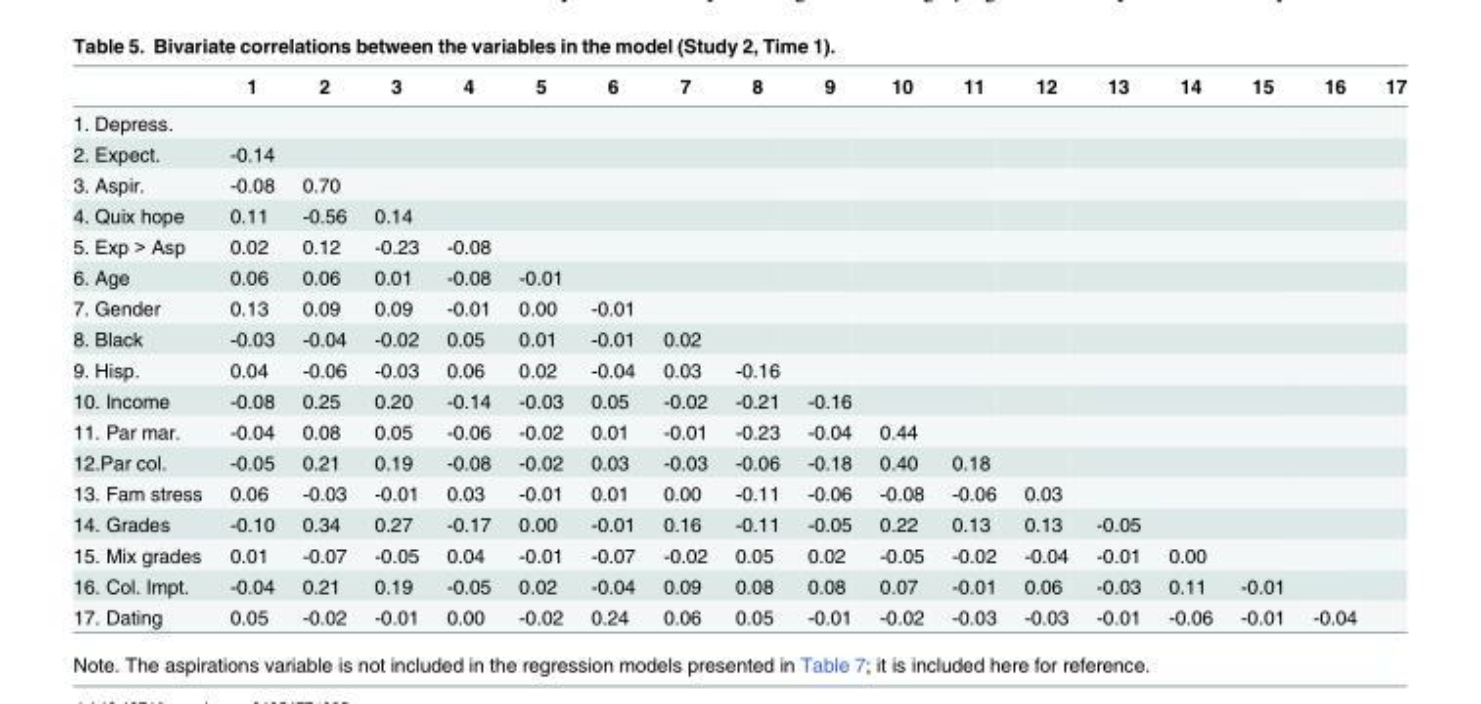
<table><thead><tr><td></td><td>1</td><td>2</td><td>3</td><td>4</td><td>5</td><td>6</td><td>7</td><td>8</td><td>9</td><td>10</td><td>11</td><td>12</td><td>13</td><td>14</td><td>15</td><td>16</td><td>17</td></tr></thead><tbody><tr><td colspan="18">1. Depress.</td></tr><tr><td>2. Expect.</td><td>-0.14</td><td></td><td></td><td></td><td></td><td></td><td></td><td></td><td></td><td></td><td></td><td></td><td></td><td></td><td></td><td></td><td></td></tr><tr><td>3. Aspir.</td><td>-0.08</td><td>0.70</td><td></td><td></td><td></td><td></td><td></td><td></td><td></td><td></td><td></td><td></td><td></td><td></td><td></td><td></td><td></td></tr><tr><td>4. Quix hope</td><td>0.11</td><td>-0.56</td><td>0.14</td><td></td><td></td><td></td><td></td><td></td><td></td><td></td><td></td><td></td><td></td><td></td><td></td><td></td><td></td></tr><tr><td>5. Exp &gt; Asp</td><td>0.02</td><td>0.12</td><td>-0.23</td><td>-0.08</td><td></td><td></td><td></td><td></td><td></td><td></td><td></td><td></td><td></td><td></td><td></td><td></td><td></td></tr><tr><td>6. Age</td><td>0.06</td><td>0.06</td><td>0.01</td><td>-0.08</td><td>-0.01</td><td></td><td></td><td></td><td></td><td></td><td></td><td></td><td></td><td></td><td></td><td></td><td></td></tr><tr><td>7. Gender</td><td>0.13</td><td>0.09</td><td>0.09</td><td>-0.01</td><td>0.00</td><td>-0.01</td><td></td><td></td><td></td><td></td><td></td><td></td><td></td><td></td><td></td><td></td><td></td></tr><tr><td>8. Black</td><td>-0.03</td><td>-0.04</td><td>-0.02</td><td>0.05</td><td>0.01</td><td>-0.01</td><td>0.02</td><td></td><td></td><td></td><td></td><td></td><td></td><td></td><td></td><td></td><td></td></tr><tr><td>9. Hisp.</td><td>0.04</td><td>-0.06</td><td>-0.03</td><td>0.06</td><td>0.02</td><td>-0.04</td><td>0.03</td><td>-0.16</td><td></td><td></td><td></td><td></td><td></td><td></td><td></td><td></td><td></td></tr><tr><td>10. Income</td><td>-0.08</td><td>0.25</td><td>0.20</td><td>-0.14</td><td>-0.03</td><td>0.05</td><td>-0.02</td><td>-0.21</td><td>-0.16</td><td></td><td></td><td></td><td></td><td></td><td></td><td></td><td></td></tr><tr><td>11. Par mar.</td><td>-0.04</td><td>0.08</td><td>0.05</td><td>-0.06</td><td>-0.02</td><td>0.01</td><td>-0.01</td><td>-0.23</td><td>-0.04</td><td>0.44</td><td></td><td></td><td></td><td></td><td></td><td></td><td></td></tr><tr><td>12.Par col.</td><td>-0.05</td><td>0.21</td><td>0.19</td><td>-0.08</td><td>-0.02</td><td>0.03</td><td>-0.03</td><td>-0.06</td><td>-0.18</td><td>0.40</td><td>0.18</td><td></td><td></td><td></td><td></td><td></td><td></td></tr><tr><td>13. Fam stress</td><td>0.06</td><td>-0.03</td><td>-0.01</td><td>0.03</td><td>-0.01</td><td>0.01</td><td>0.00</td><td>-0.11</td><td>-0.06</td><td>-0.08</td><td>-0.06</td><td>0.03</td><td></td><td></td><td></td><td></td><td></td></tr><tr><td>14. Grades</td><td>-0.10</td><td>0.34</td><td>0.27</td><td>-0.17</td><td>0.00</td><td>-0.01</td><td>0.16</td><td>-0.11</td><td>-0.05</td><td>0.22</td><td>0.13</td><td>0.13</td><td>-0.05</td><td></td><td></td><td></td><td></td></tr><tr><td>15. Mix grades</td><td>0.01</td><td>-0.07</td><td>-0.05</td><td>0.04</td><td>-0.01</td><td>-0.07</td><td>-0.02</td><td>0.05</td><td>0.02</td><td>-0.05</td><td>-0.02</td><td>-0.04</td><td>-0.01</td><td>0.00</td><td></td><td></td><td></td></tr><tr><td>16. Col. Impt.</td><td>-0.04</td><td>0.21</td><td>0.19</td><td>-0.05</td><td>0.02</td><td>-0.04</td><td>0.09</td><td>0.08</td><td>0.08</td><td>0.07</td><td>-0.01</td><td>0.06</td><td>-0.03</td><td>0.11</td><td>-0.01</td><td></td><td></td></tr><tr><td>17. Dating</td><td>0.05</td><td>-0.02</td><td>-0.01</td><td>0.00</td><td>-0.02</td><td>0.24</td><td>0.06</td><td>0.05</td><td>-0.01</td><td>-0.02</td><td>-0.03</td><td>-0.03</td><td>-0.01</td><td>-0.06</td><td>-0.01</td><td>-0.04</td><td></td></tr></tbody></table>